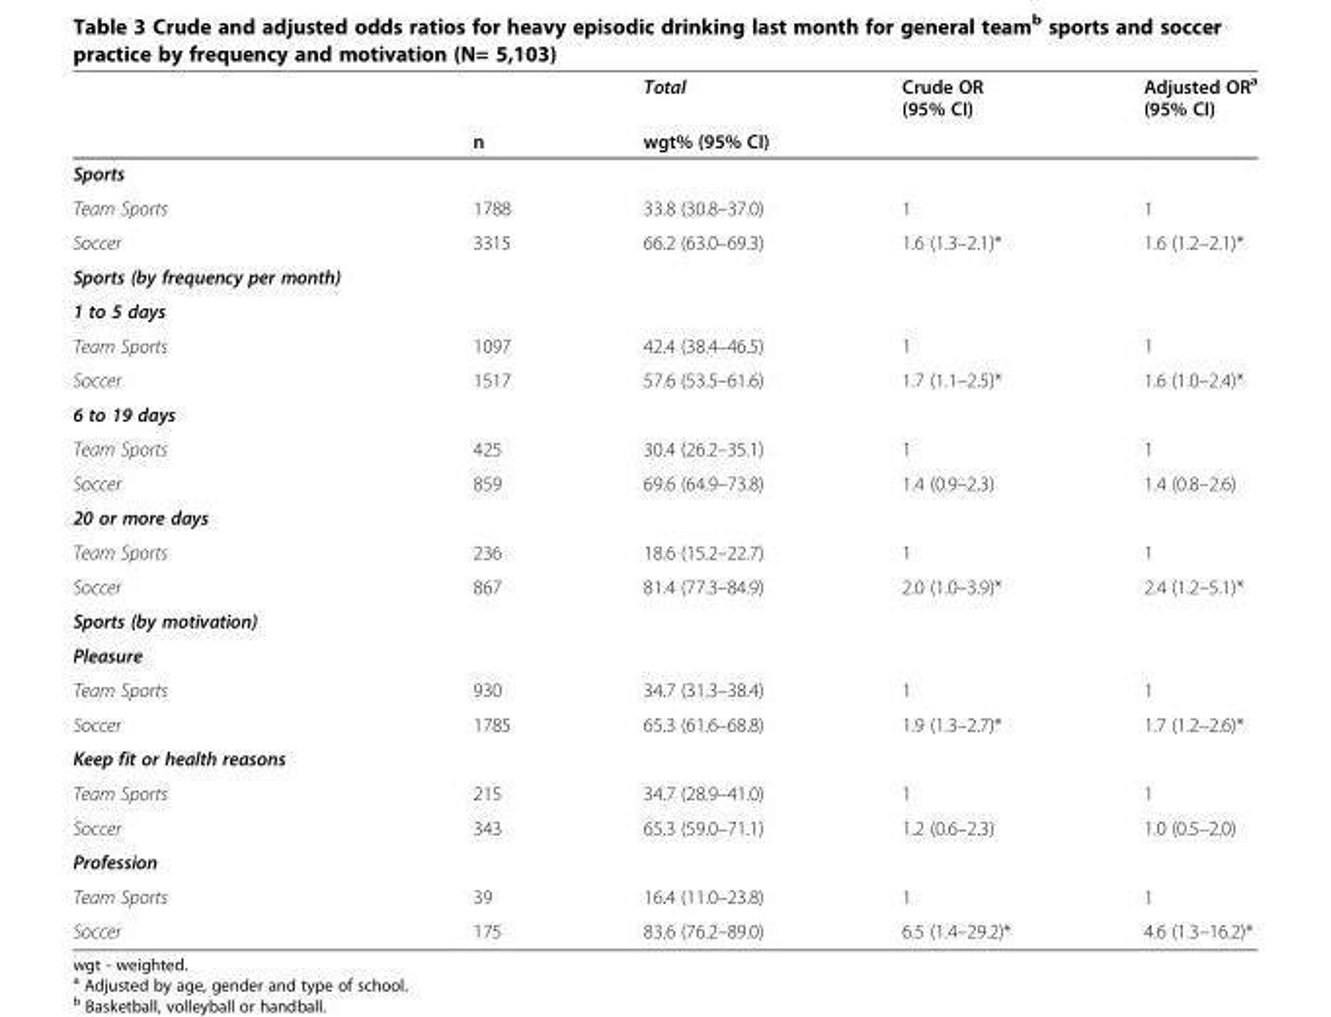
<table><thead><tr><td rowspan="2"></td><td rowspan="2">n</td><td rowspan="2">Total wgt% (95% CI)</td><td rowspan="2">Crude OR (95% CI)</td><td rowspan="2">Adjusted OR<sup>a</sup> (95% CI)</td></tr><tr></tr></thead><tbody><tr><td colspan="5">Sports</td></tr><tr><td>Team Sports</td><td>1788</td><td>33.8 (30.8–37.0)</td><td>1</td><td>1</td></tr><tr><td>Soccer</td><td>3315</td><td>66.2 (63.0–69.3)</td><td>1.6 (1.3–2.1)*</td><td>1.6 (1.2–2.1)*</td></tr><tr><td colspan="5">Sports (by frequency per month)</td></tr><tr><td colspan="5">1 to 5 days</td></tr><tr><td>Team Sports</td><td>1097</td><td>42.4 (38.4–46.5)</td><td>1</td><td>1</td></tr><tr><td>Soccer</td><td>1517</td><td>57.6 (53.5–61.6)</td><td>1.7 (1.1–2.5)*</td><td>1.6 (1.0–2.4)*</td></tr><tr><td colspan="5">6 to 19 days</td></tr><tr><td>Team Sports</td><td>425</td><td>30.4 (26.2–35.1)</td><td>1</td><td>1</td></tr><tr><td>Soccer</td><td>859</td><td>69.6 (64.9–73.8)</td><td>1.4 (0.9–2.3)</td><td>1.4 (0.8–2.6)</td></tr><tr><td colspan="5">20 or more days</td></tr><tr><td>Team Sports</td><td>236</td><td>18.6 (15.2–22.7)</td><td>1</td><td>1</td></tr><tr><td>Soccer</td><td>867</td><td>81.4 (77.3–84.9)</td><td>2.0 (1.0–3.9)*</td><td>2.4 (1.2–5.1)*</td></tr><tr><td colspan="5">Sports (by motivation)</td></tr><tr><td colspan="5">Pleasure</td></tr><tr><td>Team Sports</td><td>930</td><td>34.7 (31.3–38.4)</td><td>1</td><td>1</td></tr><tr><td>Soccer</td><td>1785</td><td>65.3 (61.6–68.8)</td><td>1.9 (1.3–2.7)*</td><td>1.7 (1.2–2.6)*</td></tr><tr><td colspan="5">Keep fit or health reasons</td></tr><tr><td>Team Sports</td><td>215</td><td>34.7 (28.9–41.0)</td><td>1</td><td>1</td></tr><tr><td>Soccer</td><td>343</td><td>65.3 (59.0–71.1)</td><td>1.2 (0.6–2.3)</td><td>1.0 (0.5–2.0)</td></tr><tr><td colspan="5">Profession</td></tr><tr><td>Team Sports</td><td>39</td><td>16.4 (11.0–23.8)</td><td>1</td><td>1</td></tr><tr><td>Soccer</td><td>175</td><td>83.6 (76.2–89.0)</td><td>6.5 (1.4–29.2)*</td><td>4.6 (1.3–16.2)*</td></tr></tbody></table>